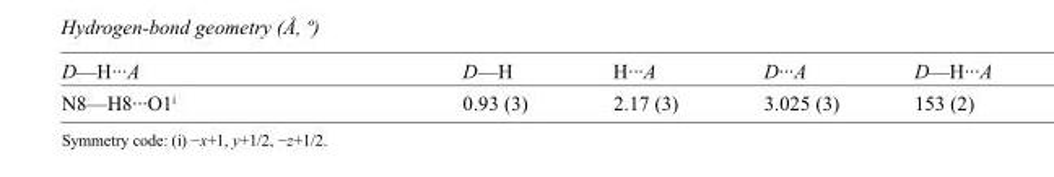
<table><tbody><tr><td>D—H···A</td><td>D—H</td><td>H···A</td><td>D···A</td><td>D—H···A</td></tr><tr><td>N8—H8···O1<sup>i</sup></td><td>0.93 (3)</td><td>2.17 (3)</td><td>3.025 (3)</td><td>153 (2)</td></tr></tbody></table>